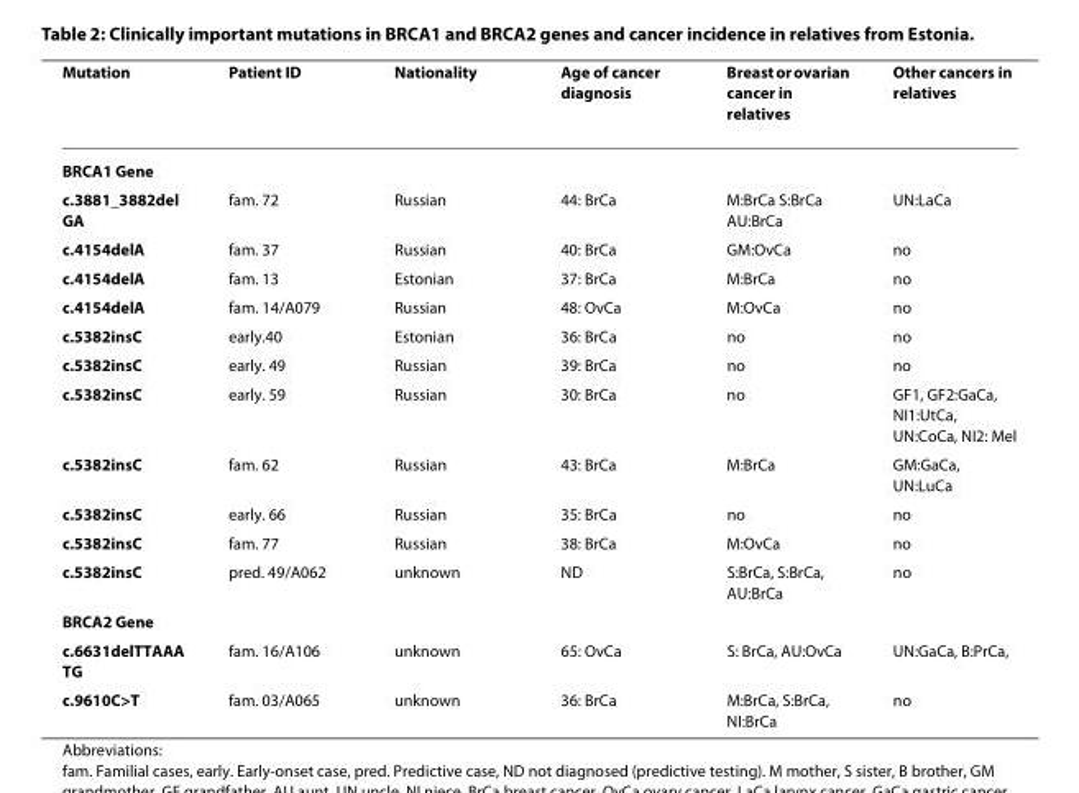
<table><thead><tr><td>Mutation</td><td>Patient ID</td><td>Nationality</td><td>Age of cancer diagnosis</td><td>Breast or ovarian cancer in relatives</td><td>Other cancers in relatives</td></tr></thead><tbody><tr><td colspan="6">BRCA1 Gene</td></tr><tr><td>c.3881_3882del GA</td><td>fam. 72</td><td>Russian</td><td>44: BrCa</td><td>M:BrCa S:BrCa AU:BrCa</td><td>UN:LaCa</td></tr><tr><td>c.4154delA</td><td>fam. 37</td><td>Russian</td><td>40: BrCa</td><td>GM:OvCa</td><td>no</td></tr><tr><td>c.4154delA</td><td>fam. 13</td><td>Estonian</td><td>37: BrCa</td><td>M:BrCa</td><td>no</td></tr><tr><td>c.4154delA</td><td>fam. 14/A079</td><td>Russian</td><td>48: OvCa</td><td>M:OvCa</td><td>no</td></tr><tr><td>c.5382insC</td><td>early.40</td><td>Estonian</td><td>36: BrCa</td><td>no</td><td>no</td></tr><tr><td>c.5382insC</td><td>early. 49</td><td>Russian</td><td>39: BrCa</td><td>no</td><td>no</td></tr><tr><td>c.5382insC</td><td>early. 59</td><td>Russian</td><td>30: BrCa</td><td>no</td><td>GF1, GF2:GaCa, NI1:UtCa, UN:CoCa, NI2: Mel</td></tr><tr><td>c.5382insC</td><td>fam. 62</td><td>Russian</td><td>43: BrCa</td><td>M:BrCa</td><td>GM:GaCa, UN:LuCa</td></tr><tr><td>c.5382insC</td><td>early. 66</td><td>Russian</td><td>35: BrCa</td><td>no</td><td>no</td></tr><tr><td>c.5382insC</td><td>fam. 77</td><td>Russian</td><td>38: BrCa</td><td>M:OvCa</td><td>no</td></tr><tr><td>c.5382insC</td><td>pred. 49/A062</td><td>unknown</td><td>ND</td><td>S:BrCa, S:BrCa, AU:BrCa</td><td>no</td></tr><tr><td colspan="6">BRCA2 Gene</td></tr><tr><td>c.6631delTTAAA TG</td><td>fam. 16/A106</td><td>unknown</td><td>65: OvCa</td><td>S: BrCa, AU:OvCa</td><td>UN:GaCa, B:PrCa,</td></tr><tr><td>c.9610C&gt;T</td><td>fam. 03/A065</td><td>unknown</td><td>36: BrCa</td><td>M:BrCa, S:BrCa, NI:BrCa</td><td>no</td></tr></tbody></table>